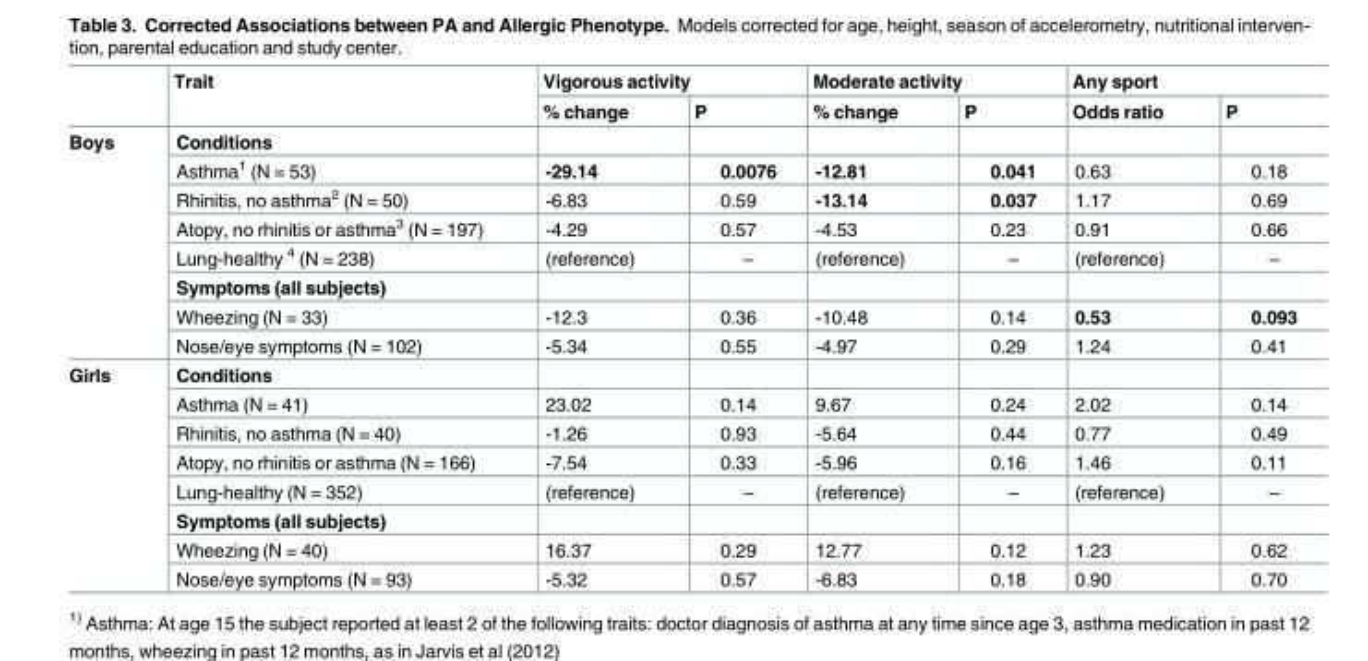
<table><thead><tr><td rowspan="2"></td><td rowspan="2">Trait</td><td colspan="2">Vigorous activity</td><td colspan="2">Moderate activity</td><td colspan="2">Any sport</td></tr><tr><td>% change</td><td>P</td><td>% change</td><td>P</td><td>Odds ratio</td><td>P</td></tr></thead><tbody><tr><td rowspan="8">Boys</td><td>Conditions</td><td></td><td></td><td></td><td></td><td></td><td></td></tr><tr><td>Asthma<sup>1</sup> (N = 53)</td><td>-29.14</td><td>0.0076</td><td>-12.81</td><td>0.041</td><td>0.63</td><td>0.18</td></tr><tr><td>Rhinitis, no asthma<sup>2</sup> (N = 50)</td><td>-6.83</td><td>0.59</td><td>-13.14</td><td>0.037</td><td>1.17</td><td>0.69</td></tr><tr><td>Atopy, no rhinitis or asthma<sup>3</sup> (N = 197)</td><td>-4.29</td><td>0.57</td><td>-4.53</td><td>0.23</td><td>0.91</td><td>0.66</td></tr><tr><td>Lung-healthy <sup>4</sup> (N = 238)</td><td>(reference)</td><td>–</td><td>(reference)</td><td>–</td><td>(reference)</td><td>–</td></tr><tr><td>Symptoms (all subjects)</td><td></td><td></td><td></td><td></td><td></td><td></td></tr><tr><td>Wheezing (N = 33)</td><td>-12.3</td><td>0.36</td><td>-10.48</td><td>0.14</td><td>0.53</td><td>0.093</td></tr><tr><td>Nose/eye symptoms (N = 102)</td><td>-5.34</td><td>0.55</td><td>-4.97</td><td>0.29</td><td>1.24</td><td>0.41</td></tr><tr><td rowspan="8">Girls</td><td>Conditions</td><td></td><td></td><td></td><td></td><td></td><td></td></tr><tr><td>Asthma (N = 41)</td><td>23.02</td><td>0.14</td><td>9.67</td><td>0.24</td><td>2.02</td><td>0.14</td></tr><tr><td>Rhinitis, no asthma (N = 40)</td><td>-1.26</td><td>0.93</td><td>-5.64</td><td>0.44</td><td>0.77</td><td>0.49</td></tr><tr><td>Atopy, no rhinitis or asthma (N = 166)</td><td>-7.54</td><td>0.33</td><td>-5.96</td><td>0.16</td><td>1.46</td><td>0.11</td></tr><tr><td>Lung-healthy (N = 352)</td><td>(reference)</td><td>–</td><td>(reference)</td><td>–</td><td>(reference)</td><td>–</td></tr><tr><td>Symptoms (all subjects)</td><td></td><td></td><td></td><td></td><td></td><td></td></tr><tr><td>Wheezing (N = 40)</td><td>16.37</td><td>0.29</td><td>12.77</td><td>0.12</td><td>1.23</td><td>0.62</td></tr><tr><td>Nose/eye symptoms (N = 93)</td><td>-5.32</td><td>0.57</td><td>-6.83</td><td>0.18</td><td>0.90</td><td>0.70</td></tr></tbody></table>